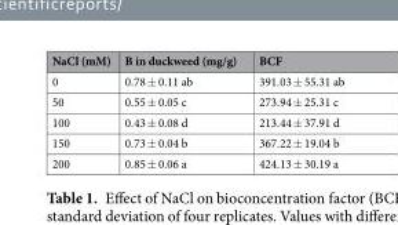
<table><thead><tr><td>NaCl (mM)</td><td>B in duckweed (mg/g)</td><td>BCF</td></tr></thead><tbody><tr><td>0</td><td>0.78 ± 0.11 ab</td><td>391.03 ± 55.31 ab</td></tr><tr><td>50</td><td>0.55 ± 0.05 c</td><td>273.94 ± 25.31 c</td></tr><tr><td>100</td><td>0.43 ± 0.08 d</td><td>213.44 ± 37.91 d</td></tr><tr><td>150</td><td>0.73 ± 0.04 b</td><td>367.22 ± 19.04 b</td></tr><tr><td>200</td><td>0.85 ± 0.06 a</td><td>424.13 ± 30.19 a</td></tr></tbody></table>